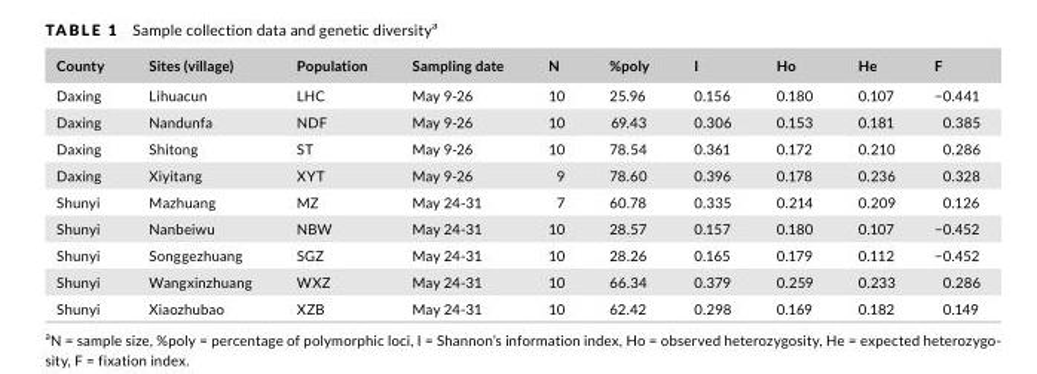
<table><thead><tr><td>County</td><td>Sites (village)</td><td>Population</td><td>Sampling date</td><td>N</td><td>%poly</td><td>I</td><td>Ho</td><td>He</td><td>F</td></tr></thead><tbody><tr><td>Daxing</td><td>Lihuacun</td><td>LHC</td><td>May 9‐ 26</td><td>10</td><td>25.96</td><td>0.156</td><td>0.180</td><td>0.107</td><td>−0.441</td></tr><tr><td>Daxing</td><td>Nandunfa</td><td>NDF</td><td>May 9‐ 26</td><td>10</td><td>69.43</td><td>0.306</td><td>0.153</td><td>0.181</td><td>0.385</td></tr><tr><td>Daxing</td><td>Shitong</td><td>ST</td><td>May 9‐ 26</td><td>10</td><td>78.54</td><td>0.361</td><td>0.172</td><td>0.210</td><td>0.286</td></tr><tr><td>Daxing</td><td>Xiyitang</td><td>XYT</td><td>May 9‐ 26</td><td>9</td><td>78.60</td><td>0.396</td><td>0.178</td><td>0.236</td><td>0.328</td></tr><tr><td>Shunyi</td><td>Mazhuang</td><td>MZ</td><td>May 24‐ 31</td><td>7</td><td>60.78</td><td>0.335</td><td>0.214</td><td>0.209</td><td>0.126</td></tr><tr><td>Shunyi</td><td>Nanbeiwu</td><td>NBW</td><td>May 24‐ 31</td><td>10</td><td>28.57</td><td>0.157</td><td>0.180</td><td>0.107</td><td>−0.452</td></tr><tr><td>Shunyi</td><td>Songgezhuang</td><td>SGZ</td><td>May 24‐ 31</td><td>10</td><td>28.26</td><td>0.165</td><td>0.179</td><td>0.112</td><td>−0.452</td></tr><tr><td>Shunyi</td><td>Wangxinzhuang</td><td>WXZ</td><td>May 24‐ 31</td><td>10</td><td>66.34</td><td>0.379</td><td>0.259</td><td>0.233</td><td>0.286</td></tr><tr><td>Shunyi</td><td>Xiaozhubao</td><td>XZB</td><td>May 24‐ 31</td><td>10</td><td>62.42</td><td>0.298</td><td>0.169</td><td>0.182</td><td>0.149</td></tr></tbody></table>